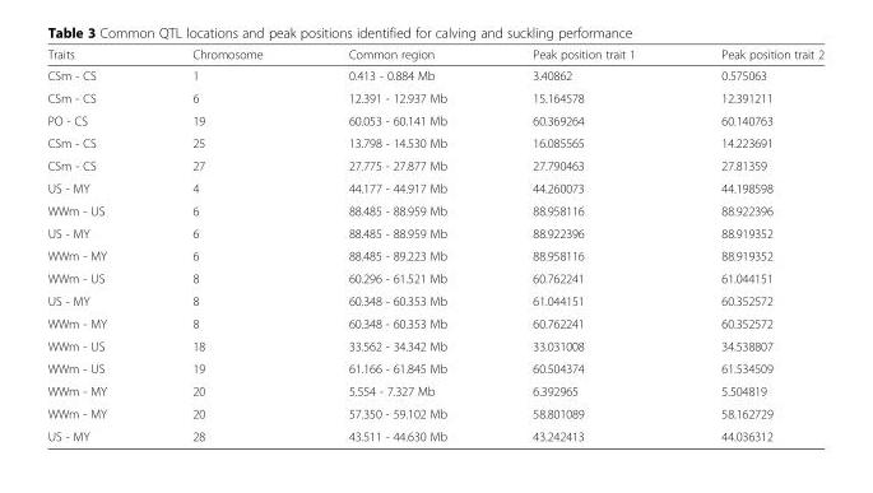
<table><thead><tr><td>Traits</td><td>Chromosome</td><td>Common region</td><td>Peak position trait 1</td><td>Peak position trait 2</td></tr></thead><tbody><tr><td>CSm - CS</td><td>1</td><td>0.413 - 0.884 Mb</td><td>3.40862</td><td>0.575063</td></tr><tr><td>CSm - CS</td><td>6</td><td>12.391 - 12.937 Mb</td><td>15.164578</td><td>12.391211</td></tr><tr><td>PO - CS</td><td>19</td><td>60.053 - 60.141 Mb</td><td>60.369264</td><td>60.140763</td></tr><tr><td>CSm - CS</td><td>25</td><td>13.798 - 14.530 Mb</td><td>16.085565</td><td>14.223691</td></tr><tr><td>CSm - CS</td><td>27</td><td>27.775 - 27.877 Mb</td><td>27.790463</td><td>27.81359</td></tr><tr><td>US - MY</td><td>4</td><td>44.177 - 44.917 Mb</td><td>44.260073</td><td>44.198598</td></tr><tr><td>WWm - US</td><td>6</td><td>88.485 - 88.959 Mb</td><td>88.958116</td><td>88.922396</td></tr><tr><td>US - MY</td><td>6</td><td>88.485 - 88.959 Mb</td><td>88.922396</td><td>88.919352</td></tr><tr><td>WWm - MY</td><td>6</td><td>88.485 - 89.223 Mb</td><td>88.958116</td><td>88.919352</td></tr><tr><td>WWm - US</td><td>8</td><td>60.296 - 61.521 Mb</td><td>60.762241</td><td>61.044151</td></tr><tr><td>US - MY</td><td>8</td><td>60.348 - 60.353 Mb</td><td>61.044151</td><td>60.352572</td></tr><tr><td>WWm - MY</td><td>8</td><td>60.348 - 60.353 Mb</td><td>60.762241</td><td>60.352572</td></tr><tr><td>WWm - US</td><td>18</td><td>33.562 - 34.342 Mb</td><td>33.031008</td><td>34.538807</td></tr><tr><td>WWm - US</td><td>19</td><td>61.166 - 61.845 Mb</td><td>60.504374</td><td>61.534509</td></tr><tr><td>WWm - MY</td><td>20</td><td>5.554 - 7.327 Mb</td><td>6.392965</td><td>5.504819</td></tr><tr><td>WWm - MY</td><td>20</td><td>57.350 - 59.102 Mb</td><td>58.801089</td><td>58.162729</td></tr><tr><td>US - MY</td><td>28</td><td>43.511 - 44.630 Mb</td><td>43.242413</td><td>44.036312</td></tr></tbody></table>